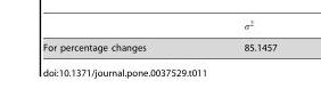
<table><tbody><tr><td>For percentage changes</td><td>85.1457</td></tr></tbody></table>